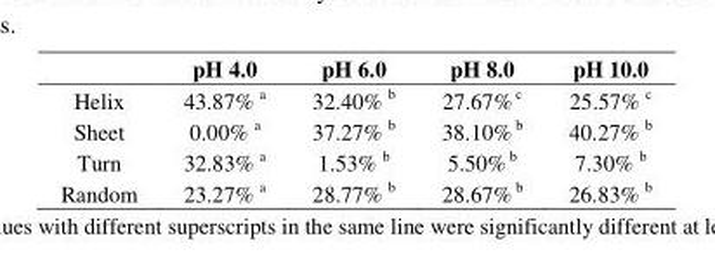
<table><thead><tr><td></td><td>pH 4.0</td><td>pH 6.0</td><td>pH 8.0</td><td>pH 10.0</td></tr></thead><tbody><tr><td>Helix</td><td>43.87% a</td><td>32.40% b</td><td>27.67% c</td><td>25.57% c</td></tr><tr><td>Sheet</td><td>0.00% a</td><td>37.27% b</td><td>38.10% b</td><td>40.27% b</td></tr><tr><td>Turn</td><td>32.83% a</td><td>1.53% b</td><td>5.50% b</td><td>7.30% b</td></tr><tr><td>Random</td><td>23.27% a</td><td>28.77% b</td><td>28.67% b</td><td>26.83% b</td></tr></tbody></table>